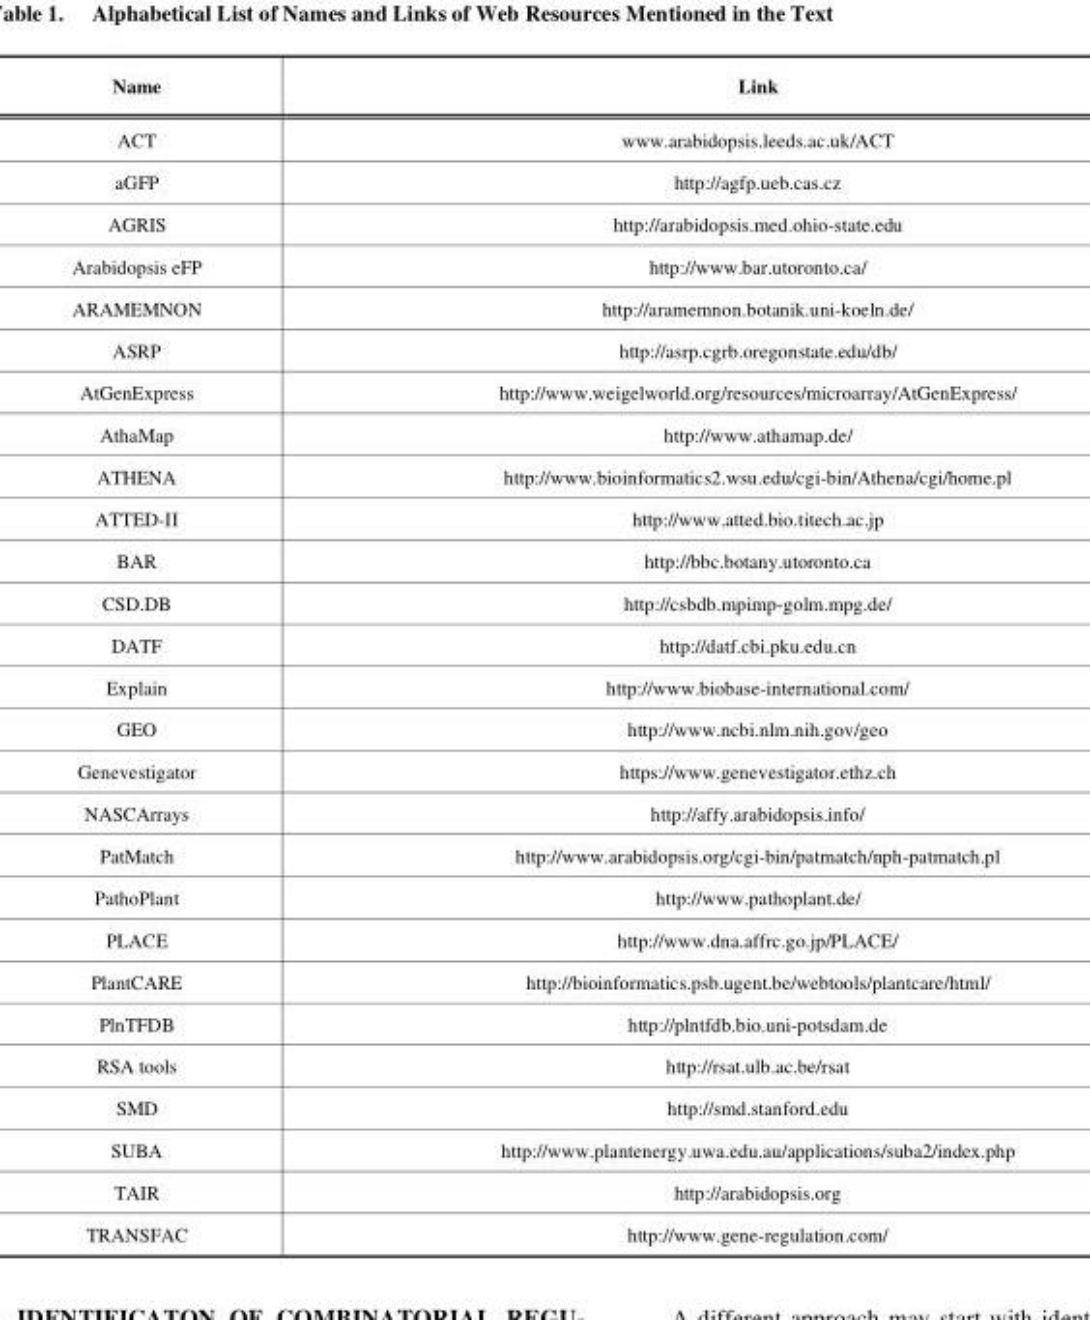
<table><thead><tr><td>Name</td><td>Link</td></tr></thead><tbody><tr><td>ACT</td><td>www.arabidopsis.leeds.ac.uk/ACT</td></tr><tr><td>aGFP</td><td>http://agfp.ueb.cas.cz</td></tr><tr><td>AGRIS</td><td>http://arabidopsis.med.ohio-state.edu</td></tr><tr><td>Arabidopsis eFP</td><td>http://www.bar.utoronto.ca/</td></tr><tr><td>ARAMEMNON</td><td>http://aramemnon.botanik.uni-koeln.de/</td></tr><tr><td>ASRP</td><td>http://asrp.cgrb.oregonstate.edu/db/</td></tr><tr><td>AtGenExpress</td><td>http://www.weigelworld.org/resources/microarray/AtGenExpress/</td></tr><tr><td>AthaMap</td><td>http://www.athamap.de/</td></tr><tr><td>ATHENA</td><td>http://www.bioinformatics2.wsu.edu/cgi-bin/Athena/cgi/home.pl</td></tr><tr><td>ATTED-II</td><td>http://www.atted.bio.titech.ac.jp</td></tr><tr><td>BAR</td><td>http://bbc.botany.utoronto.ca</td></tr><tr><td>CSD.DB</td><td>http://csbdb.mpimp-golm.mpg.de/</td></tr><tr><td>DATF</td><td>http://datf.cbi.pku.edu.cn</td></tr><tr><td>Explain</td><td>http://www.biobase-international.com/</td></tr><tr><td>GEO</td><td>http://www.ncbi.nlm.nih.gov/geo</td></tr><tr><td>Genevestigator</td><td>https://www.genevestigator.ethz.ch</td></tr><tr><td>NASCArrays</td><td>http://affy.arabidopsis.info/</td></tr><tr><td>PatMatch</td><td>http://www.arabidopsis.org/cgi-bin/patmatch/nph-patmatch.pl</td></tr><tr><td>PathoPlant</td><td>http://www.pathoplant.de/</td></tr><tr><td>PLACE</td><td>http://www.dna.affrc.go.jp/PLACE/</td></tr><tr><td>PlantCARE</td><td>http://bioinformatics.psb.ugent.be/webtools/plantcare/html/</td></tr><tr><td>PlnTFDB</td><td>http://plntfdb.bio.uni-potsdam.de</td></tr><tr><td>RSA tools</td><td>http://rsat.ulb.ac.be/rsat</td></tr><tr><td>SMD</td><td>http://smd.stanford.edu</td></tr><tr><td>SUBA</td><td>http://www.plantenergy.uwa.edu.au/applications/suba2/index.php</td></tr><tr><td>TAIR</td><td>http://arabidopsis.org</td></tr><tr><td>TRANSFAC</td><td>http://www.gene-regulation.com/</td></tr></tbody></table>